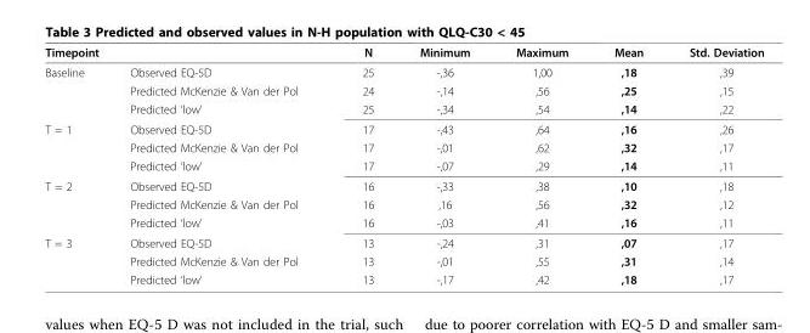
<table><thead><tr><td colspan="2">Timepoint</td><td rowspan="2">N 25</td><td rowspan="2">Minimum -,36</td><td rowspan="2">Maximum 1,00</td><td rowspan="2">Mean ,18</td><td rowspan="2">Std. Deviation ,39</td></tr><tr><td>Baseline</td><td>Observed EQ-5D</td></tr></thead><tbody><tr><td></td><td>Predicted McKenzie &amp; Van der Pol</td><td>24</td><td>-,14</td><td>,56</td><td>,25</td><td>,15</td></tr><tr><td></td><td>Predicted ‘low’</td><td>25</td><td>-,34</td><td>,54</td><td>,14</td><td>,22</td></tr><tr><td rowspan="3">T = 1</td><td>Observed EQ-5D</td><td>17</td><td>-,43</td><td>,64</td><td>,16</td><td>,26</td></tr><tr><td>Predicted McKenzie &amp; Van der Pol</td><td>17</td><td>-,01</td><td>,62</td><td>,32</td><td>,17</td></tr><tr><td>Predicted ‘low’</td><td>17</td><td>-,07</td><td>,29</td><td>,14</td><td>,11</td></tr><tr><td rowspan="3">T = 2</td><td>Observed EQ-5D</td><td>16</td><td>-,33</td><td>,38</td><td>,10</td><td>,18</td></tr><tr><td>Predicted McKenzie &amp; Van der Pol</td><td>16</td><td>,16</td><td>,56</td><td>,32</td><td>,12</td></tr><tr><td>Predicted ‘low’</td><td>16</td><td>-,03</td><td>,41</td><td>,16</td><td>,11</td></tr><tr><td rowspan="3">T = 3</td><td>Observed EQ-5D</td><td>13</td><td>-,24</td><td>,31</td><td>,07</td><td>,17</td></tr><tr><td>Predicted McKenzie &amp; Van der Pol</td><td>13</td><td>-,01</td><td>,55</td><td>,31</td><td>,14</td></tr><tr><td>Predicted ‘low’</td><td>13</td><td>-,17</td><td>,42</td><td>,18</td><td>,17</td></tr></tbody></table>